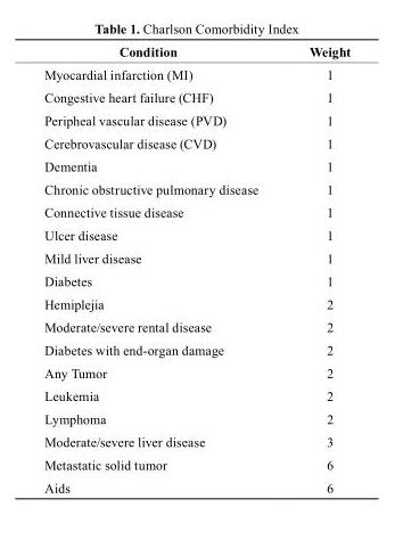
<table><thead><tr><td>condition</td><td>Weight</td></tr></thead><tbody><tr><td>Myocardial infarction (MI)</td><td>1</td></tr><tr><td>Congestive heart failure (CHF)</td><td>1</td></tr><tr><td>Peripheal vascular disease (PVD)</td><td>1</td></tr><tr><td>Cerebrovascular disease (CVD)</td><td>1</td></tr><tr><td>Dementia</td><td>1</td></tr><tr><td>Chronic obstructive pulmonary disease</td><td>1</td></tr><tr><td>Connective tissue disease</td><td>1</td></tr><tr><td>Ulcer disease</td><td>1</td></tr><tr><td>Mild liver disease</td><td>1</td></tr><tr><td>Diabetes</td><td>1</td></tr><tr><td>Hemiplejia</td><td>2</td></tr><tr><td>Moderate/severe rental disease</td><td>2</td></tr><tr><td>Diabetes with end-organ damage</td><td>2</td></tr><tr><td>Any Tumor</td><td>2</td></tr><tr><td>Leukemia</td><td>2</td></tr><tr><td>Lymphoma</td><td>2</td></tr><tr><td>Moderate/severe liver disease</td><td>3</td></tr><tr><td>Metastatic solid tumor</td><td>6</td></tr><tr><td>Aids</td><td>6</td></tr></tbody></table>